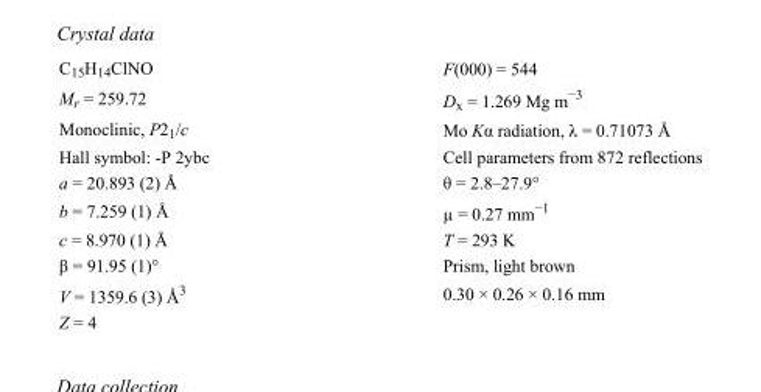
<table><tbody><tr><td>C<sub>15</sub>H<sub>14</sub>ClNO</td><td>F(000) = 544</td></tr><tr><td>M<sub>r</sub> = 259.72</td><td>D<sub>x</sub> = 1.269 Mg m<sup>−3</sup></td></tr><tr><td>Monoclinic, P2<sub>1</sub>/c</td><td>Mo Kα radiation, λ = 0.71073 Å</td></tr><tr><td>Hall symbol: -P 2ybc</td><td>Cell parameters from 872 reflections</td></tr><tr><td>a = 20.893 (2) Å</td><td>θ = 2.8–27.9°</td></tr><tr><td>b = 7.259 (1) Å</td><td>µ = 0.27 mm<sup>−1</sup></td></tr><tr><td>c = 8.970 (1) Å</td><td>T = 293 K</td></tr><tr><td>β = 91.95 (1)°</td><td>Prism, light brown</td></tr><tr><td>V = 1359.6 (3) Å<sup>3</sup></td><td>0.30 × 0.26 × 0.16 mm</td></tr><tr><td>Z = 4</td><td></td></tr></tbody></table>